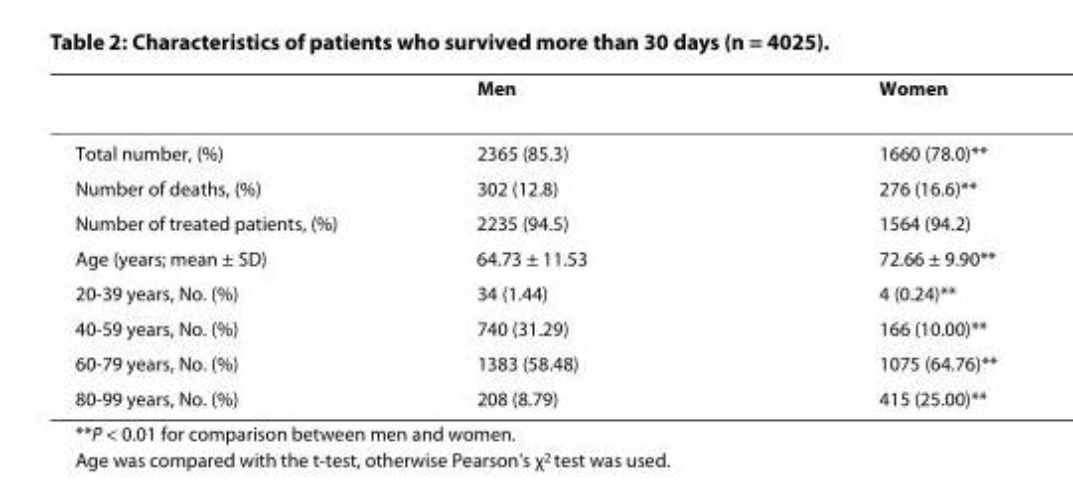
<table><thead><tr><td></td><td>Men</td><td>Women</td></tr></thead><tbody><tr><td>Total number, (%)</td><td>2365 (85.3)</td><td>1660 (78.0)**</td></tr><tr><td>Number of deaths, (%)</td><td>302 (12.8)</td><td>276 (16.6)**</td></tr><tr><td>Number of treated patients, (%)</td><td>2235 (94.5)</td><td>1564 (94.2)</td></tr><tr><td>Age (years; mean ± SD)</td><td>64.73 ± 11.53</td><td>72.66 ± 9.90**</td></tr><tr><td>20-39 years, No. (%)</td><td>34 (1.44)</td><td>4 (0.24)**</td></tr><tr><td>40-59 years, No. (%)</td><td>740 (31.29)</td><td>166 (10.00)**</td></tr><tr><td>60-79 years, No. (%)</td><td>1383 (58.48)</td><td>1075 (64.76)**</td></tr><tr><td>80-99 years, No. (%)</td><td>208 (8.79)</td><td>415 (25.00)**</td></tr></tbody></table>